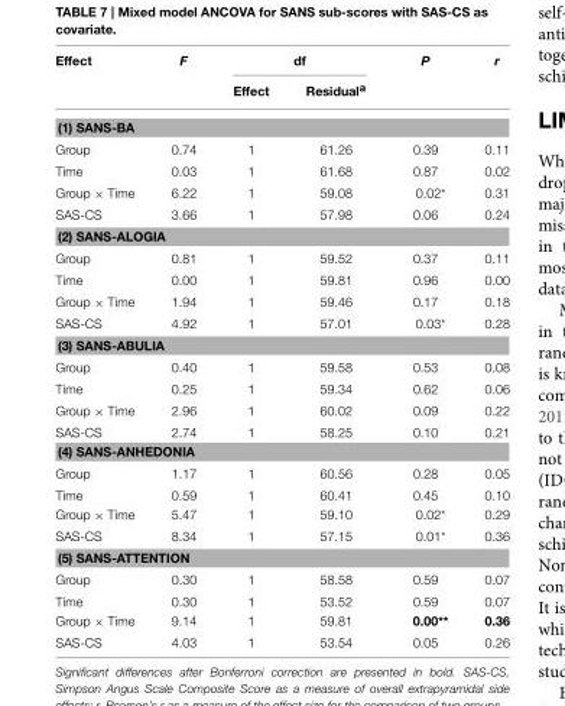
<table><thead><tr><td rowspan="2">Effect</td><td rowspan="2">F</td><td colspan="2">df</td><td rowspan="2">P</td><td rowspan="2">r</td></tr><tr><td>Effect</td><td>Residual<sup>a</sup></td></tr></thead><tbody><tr><td colspan="6">(1) SANS-BA</td></tr><tr><td>Group</td><td>0.74</td><td>1</td><td>61.26</td><td>0.39</td><td>0.11</td></tr><tr><td>Time</td><td>0.03</td><td>1</td><td>61.68</td><td>0.87</td><td>0.02</td></tr><tr><td>Group × Time</td><td>6.22</td><td>1</td><td>59.08</td><td>0.02*</td><td>0.31</td></tr><tr><td>SAS-CS</td><td>3.66</td><td>1</td><td>57.98</td><td>0.06</td><td>0.24</td></tr><tr><td colspan="6">(2) SANS-ALOGIA</td></tr><tr><td>Group</td><td>0.81</td><td>1</td><td>59.52</td><td>0.37</td><td>0.11</td></tr><tr><td>Time</td><td>0.00</td><td>1</td><td>59.81</td><td>0.96</td><td>0.00</td></tr><tr><td>Group × Time</td><td>1.94</td><td>1</td><td>59.46</td><td>0.17</td><td>0.18</td></tr><tr><td>SAS-CS</td><td>4.92</td><td>1</td><td>57.01</td><td>0.03*</td><td>0.28</td></tr><tr><td colspan="6">(3) SANS-ABULIA</td></tr><tr><td>Group</td><td>0.40</td><td>1</td><td>59.58</td><td>0.53</td><td>0.08</td></tr><tr><td>Time</td><td>0.25</td><td>1</td><td>59.34</td><td>0.62</td><td>0.06</td></tr><tr><td>Group × Time</td><td>2.96</td><td>1</td><td>60.02</td><td>0.09</td><td>0.22</td></tr><tr><td>SAS-CS</td><td>2.74</td><td>1</td><td>58.25</td><td>0.10</td><td>0.21</td></tr><tr><td colspan="6">(4) SANS-ANHEDONIA</td></tr><tr><td>Group</td><td>1.17</td><td>1</td><td>60.56</td><td>0.28</td><td>0.05</td></tr><tr><td>Time</td><td>0.59</td><td>1</td><td>60.41</td><td>0.45</td><td>0.10</td></tr><tr><td>Group × Time</td><td>5.47</td><td>1</td><td>59.10</td><td>0.02*</td><td>0.29</td></tr><tr><td>SAS-CS</td><td>8.34</td><td>1</td><td>57.15</td><td>0.01*</td><td>0.36</td></tr><tr><td colspan="6">(5) SANS-ATTENTION</td></tr><tr><td>Group</td><td>0.30</td><td>1</td><td>58.58</td><td>0.59</td><td>0.07</td></tr><tr><td>Time</td><td>0.30</td><td>1</td><td>53.52</td><td>0.59</td><td>0.07</td></tr><tr><td>Group × Time</td><td>9.14</td><td>1</td><td>59.81</td><td>0.00**</td><td>0.36</td></tr><tr><td>SAS-CS</td><td>4.03</td><td>1</td><td>53.54</td><td>0.05</td><td>0.26</td></tr></tbody></table>